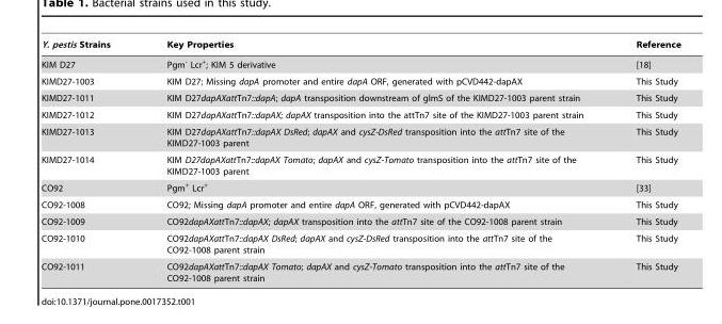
<table><thead><tr><td>Y. pestis Strains</td><td>Key Properties</td><td>Reference</td></tr></thead><tbody><tr><td>KIM D27</td><td>Pgm<sup>-</sup> Lcr<sup>+</sup>; KIM 5 derivative</td><td>[18]</td></tr><tr><td>KIMD27-1003</td><td>KIM D27; Missing dapA promoter and entire dapA ORF, generated with pCVD442-dapAX</td><td>This Study</td></tr><tr><td>KIMD27-1011</td><td>KIM D27dapAXattTn7::dapA; dapA transposition downstream of glmS of the KIMD27-1003 parent strain</td><td>This Study</td></tr><tr><td>KIMD27-1012</td><td>KIM D27dapAXattTn7::dapAX; dapAX transposition into the attTn7 site of the KIMD27-1003 parent strain</td><td>This Study</td></tr><tr><td>KIMD27-1013</td><td>KIM D27dapAXattTn7::dapAX DsRed; dapAX and cysZ-DsRed transposition into the attTn7 site of the KIMD27-1003 parent</td><td>This Study</td></tr><tr><td>KIMD27-1014</td><td>KIM D27dapAXattTn7::dapAX Tomato; dapAX and cysZ-Tomato transposition into the attTn7 site of the KIMD27-1003 parent</td><td>This Study</td></tr><tr><td>CO92</td><td>Pgm<sup>+</sup> Lcr<sup>+</sup></td><td>[33]</td></tr><tr><td>CO92-1008</td><td>CO92; Missing dapA promoter and entire dapA ORF, generated with pCVD442-dapAX</td><td>This Study</td></tr><tr><td>CO92-1009</td><td>CO92dapAXattTn7::dapAX; dapAX transposition into the attTn7 site of the CO92-1008 parent strain</td><td>This Study</td></tr><tr><td>CO92-1010</td><td>CO92dapAXattTn7::dapAX DsRed; dapAX and cysZ-DsRed transposition into the attTn7 site of the CO92-1008 parent strain</td><td>This Study</td></tr><tr><td>CO92-1011</td><td>CO92dapAXattTn7::dapAX Tomato; dapAX and cysZ-Tomato transposition into the attTn7 site of the CO92-1008 parent strain</td><td>This Study</td></tr></tbody></table>